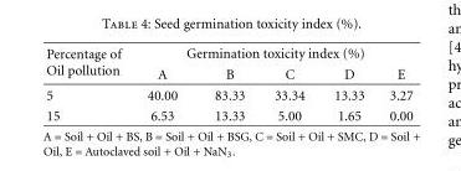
<table><thead><tr><td rowspan="2">Percentage of Oil pollution</td><td colspan="5">Germination toxicity index (%)</td></tr><tr><td>A</td><td>B</td><td>C</td><td>D</td><td>E</td></tr></thead><tbody><tr><td>5</td><td>40.00</td><td>83.33</td><td>33.34</td><td>13.33</td><td>3.27</td></tr><tr><td>15</td><td>6.53</td><td>13.33</td><td>5.00</td><td>1.65</td><td>0.00</td></tr></tbody></table>